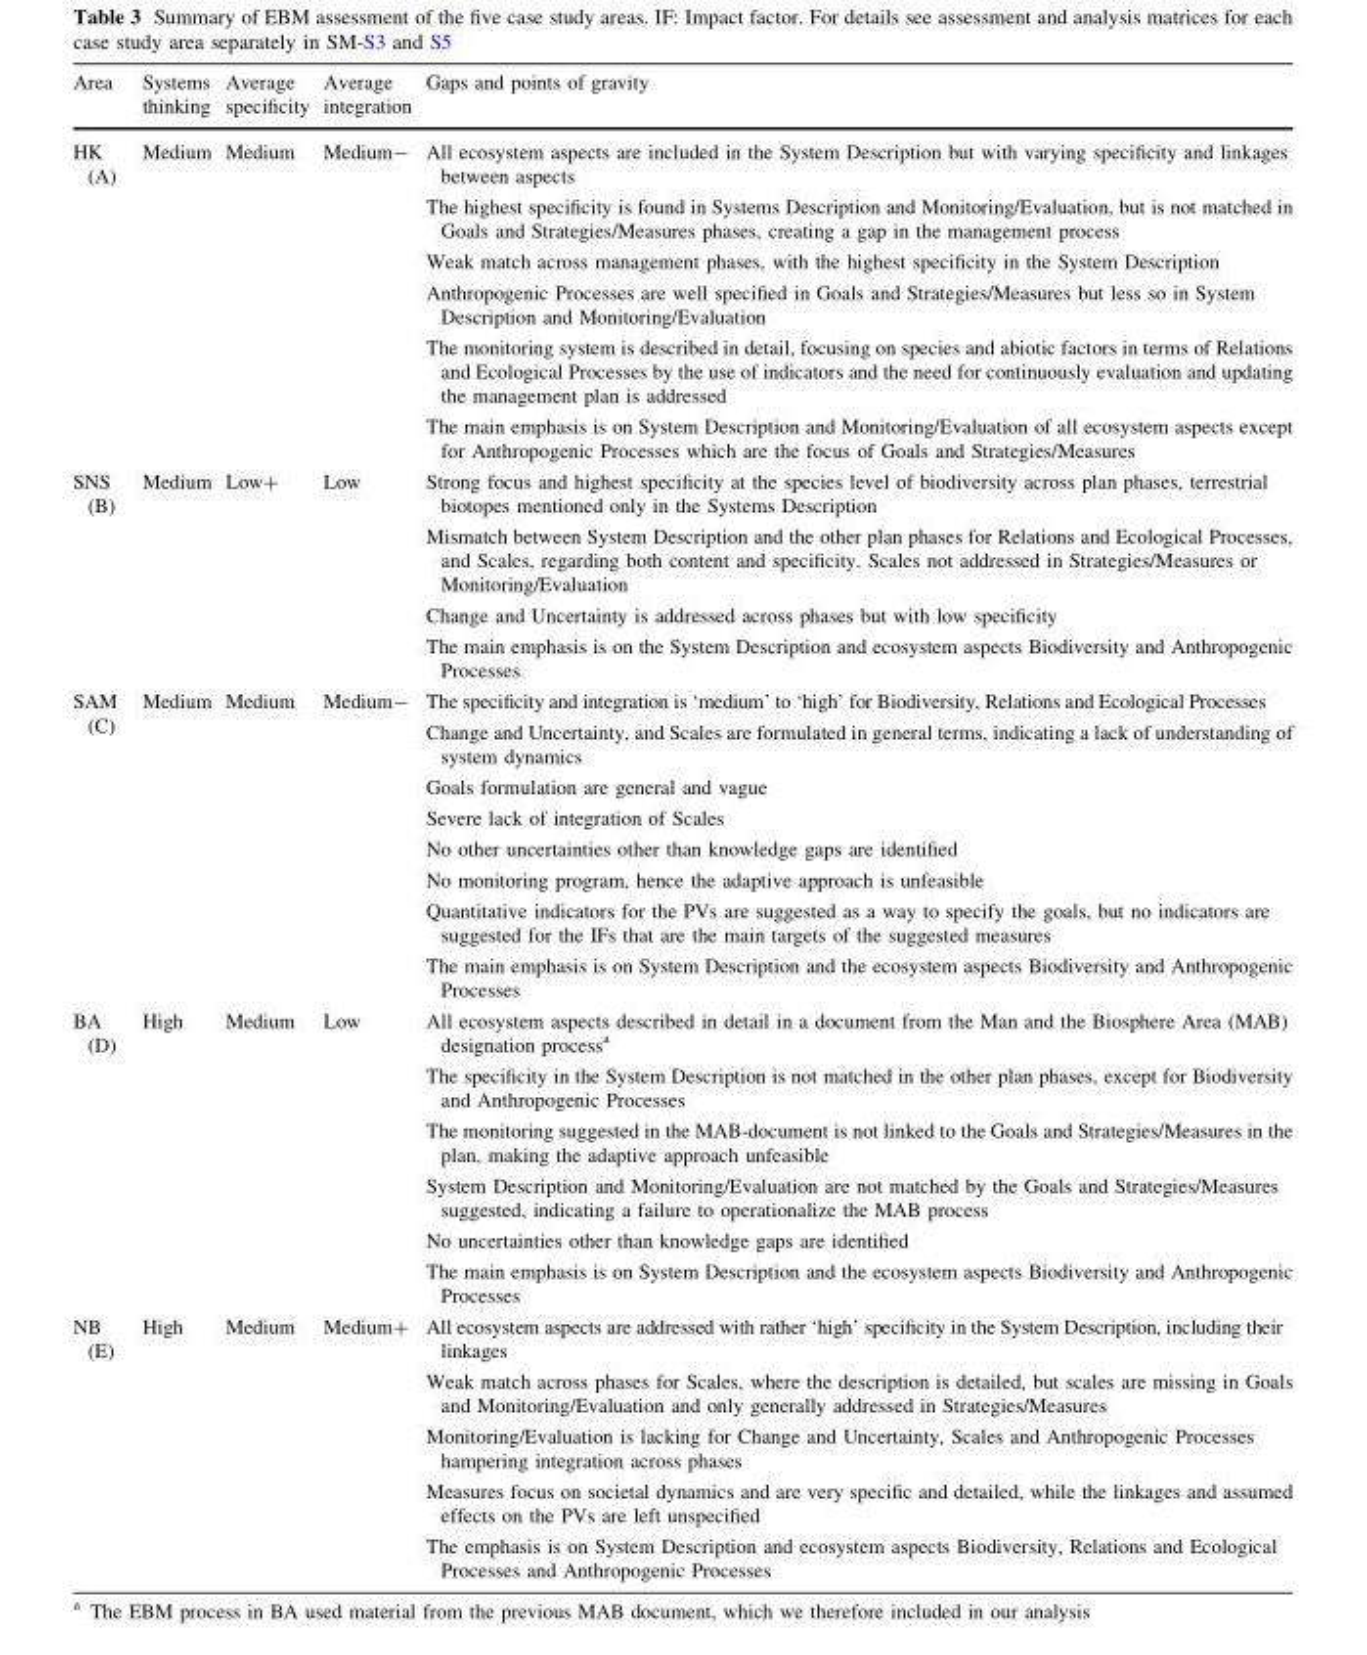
<table><thead><tr><td>Area</td><td>Systems thinking</td><td>Average specificity</td><td>Average integration</td><td>Gaps and points of gravity</td></tr></thead><tbody><tr><td>HK (A)</td><td>Medium</td><td>Medium</td><td>Medium-</td><td>All ecosystem aspects are included in the System Description but with varying specificity and linkages between aspects The highest specificity is found in Systems Description and Monitoring/Evaluation, but is not matched in Goals and Strategies/Measures phases, creating a gap in the management process Weak match across management phases, with the highest specificity in the System Description Anthropogenic Processes are well specified in Goals and Strategies/Measures but less so in System Description and Monitoring/Evaluation The monitoring system is described in detail, focusing on species and abiotic factors in terms of Relations and Ecological Processes by the use of indicators and the need for continuously evaluation and updating the management plan is addressed The main emphasis is on System Description and Monitoring/Evaluation of all ecosystem aspects except for Anthropogenic Processes which are the focus of Goals and Strategies/Measures</td></tr><tr><td>SNS (B)</td><td>Medium</td><td>Low+</td><td>Low</td><td>Strong focus and highest specificity at the species level of biodiversity across plan phases, terrestrial biotopes mentioned only in the Systems Description Mismatch between System Description and the other plan phases for Relations and Ecological Processes, and Scales, regarding both content and specificity. Scales not addressed in Strategies/Measures or Monitoring/Evaluation Change and Uncertainty is addressed across phases but with low specificity The main emphasis is on the System Description and ecosystem aspects Biodiversity and Anthropogenic Processes</td></tr><tr><td>SAM (C)</td><td>Medium</td><td>Medium</td><td>Medium-</td><td>The specificity and integration is ‘medium’ to ‘high’ for Biodiversity, Relations and Ecological Processes Change and Uncertainty, and Scales are formulated in general terms, indicating a lack of understanding of system dynamics Goals formulation are general and vague Severe lack of integration of Scales No other uncertainties other than knowledge gaps are identified No monitoring program, hence the adaptive approach is unfeasible Quantitative indicators for the PVs are suggested as a way to specify the goals, but no indicators are suggested for the IFs that are the main targets of the suggested measures The main emphasis is on System Description and the ecosystem aspects Biodiversity and Anthropogenic Processes</td></tr><tr><td>BA (D)</td><td>High</td><td>Medium</td><td>Low</td><td>All ecosystem aspects described in detail in a document from the Man and the Biosphere Area (MAB) designation process<sup>a</sup> The specificity in the System Description is not matched in the other plan phases, except for Biodiversity and Anthropogenic Processes The monitoring suggested in the MAB-document is not linked to the Goals and Strategies/Measures in the plan, making the adaptive approach unfeasible System Description and Monitoring/Evaluation are not matched by the Goals and Strategies/Measures suggested, indicating a failure to operationalize the MAB process No uncertainties other than knowledge gaps are identified The main emphasis is on System Description and the ecosystem aspects Biodiversity and Anthropogenic Processes</td></tr><tr><td>NB (E)</td><td>High</td><td>Medium</td><td>Medium+</td><td>All ecosystem aspects are addressed with rather ‘high’ specificity in the System Description, including their linkages Weak match across phases for Scales, where the description is detailed, but scales are missing in Goals and Monitoring/Evaluation and only generally addressed in Strategies/Measures Monitoring/Evaluation is lacking for Change and Uncertainty, Scales and Anthropogenic Processes hampering integration across phases Measures focus on societal dynamics and are very specific and detailed, while the linkages and assumed effects on the PVs are left unspecified The emphasis is on System Description and ecosystem aspects Biodiversity, Relations and Ecological Processes and Anthropogenic Processes</td></tr></tbody></table>